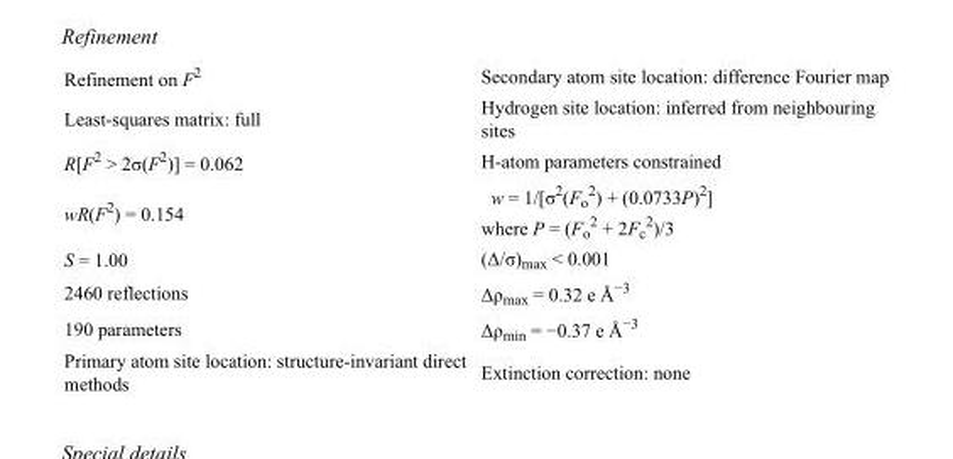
<table><tbody><tr><td>Refinement on F<sup>2</sup></td><td>Secondary atom site location: difference Fourier map</td></tr><tr><td>Least-squares matrix: full</td><td>Hydrogen site location: inferred from neighbouring sites</td></tr><tr><td>R[F<sup>2</sup> &gt; 2σ(F<sup>2</sup>)] = 0.062</td><td>H-atom parameters constrained</td></tr><tr><td>wR(F<sup>2</sup>) = 0.154</td><td>w = 1/[σ<sup>2</sup>(F<sub>o</sub> <sup>2</sup>) + (0.0733P)<sup>2</sup>] where P = (F<sub>o</sub> <sup>2</sup> + 2F<sub>c</sub> <sup>2</sup>)/3</td></tr><tr><td>S = 1.00</td><td>(Δ/σ)<sub>max</sub> &lt; 0.001</td></tr><tr><td>2460 reflections</td><td>Δρ<sub>max</sub> = 0.32 e Å<sup>−3</sup></td></tr><tr><td>190 parameters</td><td>Δρ<sub>min</sub> = −0.37 e Å<sup>−3</sup></td></tr><tr><td>Primary atom site location: structure-invariant direct methods</td><td>Extinction correction: none</td></tr></tbody></table>